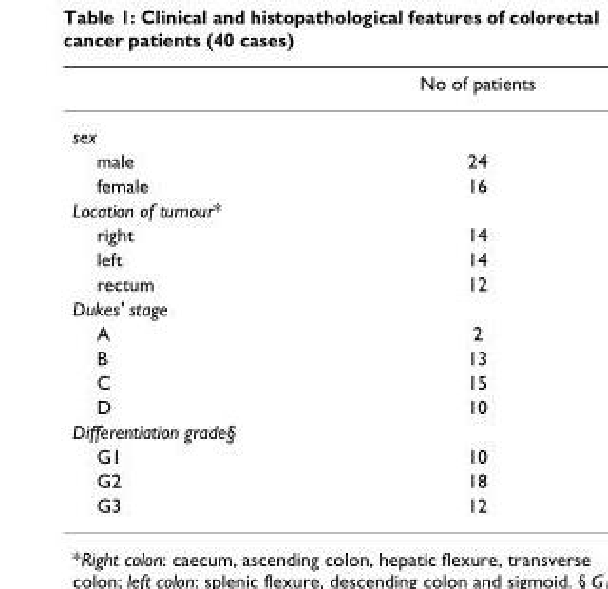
<table><thead><tr><td></td><td>No of patients</td></tr></thead><tbody><tr><td colspan="2">sex</td></tr><tr><td>male</td><td>24</td></tr><tr><td>female</td><td>16</td></tr><tr><td colspan="2">Location of tumour*</td></tr><tr><td>right</td><td>14</td></tr><tr><td>left</td><td>14</td></tr><tr><td>rectum</td><td>12</td></tr><tr><td colspan="2">Dukes&#x27; stage</td></tr><tr><td>A</td><td>2</td></tr><tr><td>B</td><td>13</td></tr><tr><td>C</td><td>15</td></tr><tr><td>D</td><td>10</td></tr><tr><td colspan="2">Differentiation grade§</td></tr><tr><td>G1</td><td>10</td></tr><tr><td>G2</td><td>18</td></tr><tr><td>G3</td><td>12</td></tr></tbody></table>